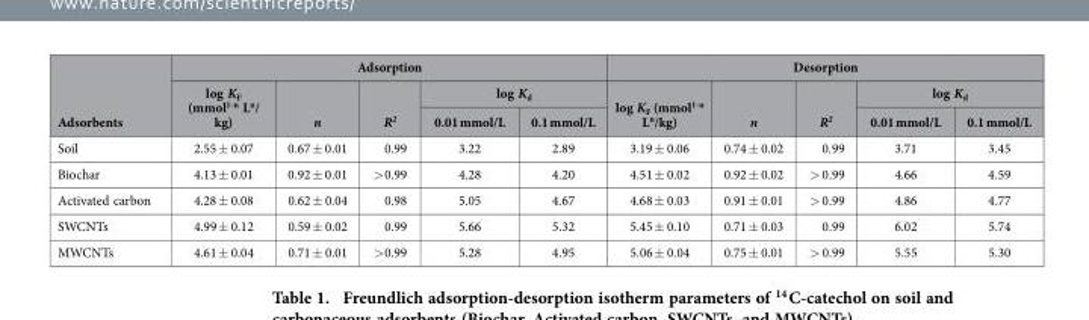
<table><thead><tr><td rowspan="3">Adsorbents</td><td colspan="5">Adsorption</td><td colspan="5">Desorption</td></tr><tr><td rowspan="2">log K<sub>F</sub> (mmol<sup>1-n</sup> L<sup>n</sup>/ kg)</td><td rowspan="2">n</td><td rowspan="2">R<sup>2</sup></td><td colspan="2">log K<sub>d</sub></td><td rowspan="2">log K<sub>F</sub> (mmol<sup>1-n</sup> L<sup>n</sup>/kg)</td><td rowspan="2">n</td><td rowspan="2">R<sup>2</sup></td><td colspan="2">log K<sub>d</sub></td></tr><tr><td>0.01 mmol/L</td><td>0.1 mmol/L</td><td>0.01 mmol/L</td><td>0.1 mmol/L</td></tr></thead><tbody><tr><td>Soil</td><td>2.55 ± 0.07</td><td>0.67 ± 0.01</td><td>0.99</td><td>3.22</td><td>2.89</td><td>3.19 ± 0.06</td><td>0.74 ± 0.02</td><td>0.99</td><td>3.71</td><td>3.45</td></tr><tr><td>Biochar</td><td>4.13 ± 0.01</td><td>0.92 ± 0.01</td><td>&gt; 0.99</td><td>4.28</td><td>4.20</td><td>4.51 ± 0.02</td><td>0.92 ± 0.02</td><td>&gt; 0.99</td><td>4.66</td><td>4.59</td></tr><tr><td>Activated carbon</td><td>4.28 ± 0.08</td><td>0.62 ± 0.04</td><td>0.98</td><td>5.05</td><td>4.67</td><td>4.68 ± 0.03</td><td>0.91 ± 0.01</td><td>&gt; 0.99</td><td>4.86</td><td>4.77</td></tr><tr><td>SWCNTs</td><td>4.99 ± 0.12</td><td>0.59 ± 0.02</td><td>0.99</td><td>5.66</td><td>5.32</td><td>5.45 ± 0.10</td><td>0.71 ± 0.03</td><td>0.99</td><td>6.02</td><td>5.74</td></tr><tr><td>MWCNTs</td><td>4.61 ± 0.04</td><td>0.71 ± 0.01</td><td>&gt; 0.99</td><td>5.28</td><td>4.95</td><td>5.06 ± 0.04</td><td>0.75 ± 0.01</td><td>&gt; 0.99</td><td>5.55</td><td>5.30</td></tr></tbody></table>